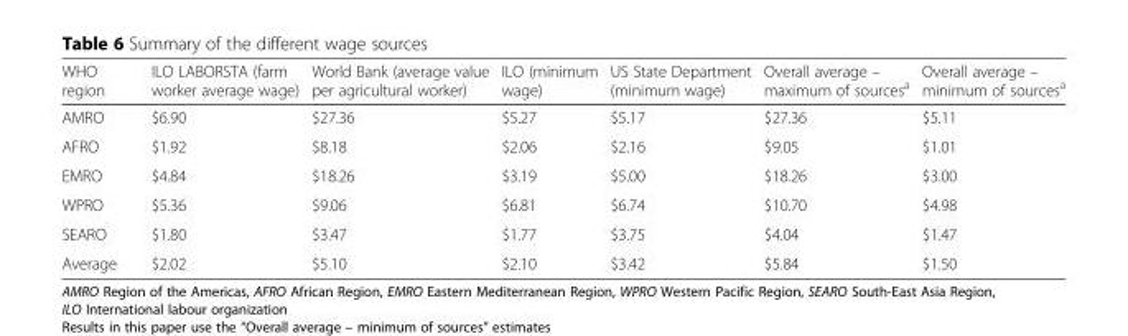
<table><thead><tr><td>WHO region</td><td>ILO LABORSTA (farm worker average wage)</td><td>World Bank (average value per agricultural worker)</td><td>ILO (minimum wage)</td><td>US State Department (minimum wage)</td><td>Overall average – maximum of sources<sup>a</sup></td><td>Overall average – minimum of sources<sup>a</sup></td></tr></thead><tbody><tr><td>AMRO</td><td>$6.90</td><td>$27.36</td><td>$5.27</td><td>$5.17</td><td>$27.36</td><td>$5.11</td></tr><tr><td>AFRO</td><td>$1.92</td><td>$8.18</td><td>$2.06</td><td>$2.16</td><td>$9.05</td><td>$1.01</td></tr><tr><td>EMRO</td><td>$4.84</td><td>$18.26</td><td>$3.19</td><td>$5.00</td><td>$18.26</td><td>$3.00</td></tr><tr><td>WPRO</td><td>$5.36</td><td>$9.06</td><td>$6.81</td><td>$6.74</td><td>$10.70</td><td>$4.98</td></tr><tr><td>SEARO</td><td>$1.80</td><td>$3.47</td><td>$1.77</td><td>$3.75</td><td>$4.04</td><td>$1.47</td></tr><tr><td>Average</td><td>$2.02</td><td>$5.10</td><td>$2.10</td><td>$3.42</td><td>$5.84</td><td>$1.50</td></tr></tbody></table>